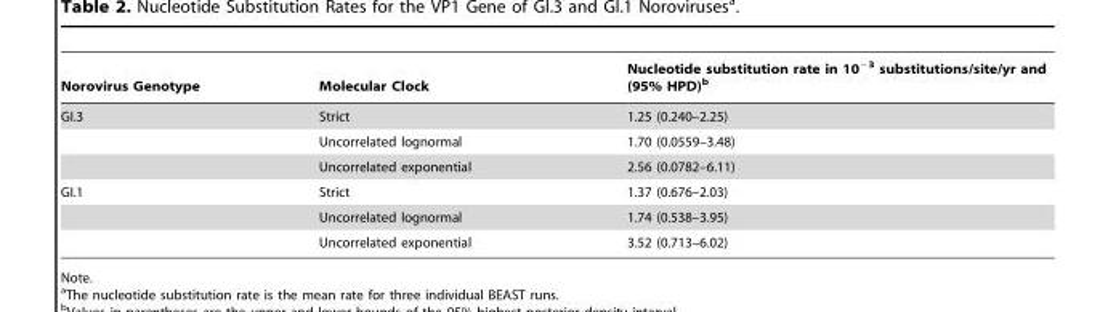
<table><thead><tr><td>Norovirus Genotype</td><td>Molecular Clock</td><td>Nucleotide substitution rate in 10<sup>−3</sup> substitutions/site/yr and (95% HPD)<sup>b</sup></td></tr></thead><tbody><tr><td rowspan="3">GI.3</td><td>Strict</td><td>1.25 (0.240–2.25)</td></tr><tr><td>Uncorrelated lognormal</td><td>1.70 (0.0559–3.48)</td></tr><tr><td>Uncorrelated exponential</td><td>2.56 (0.0782–6.11)</td></tr><tr><td rowspan="3">GI.1</td><td>Strict</td><td>1.37 (0.676–2.03)</td></tr><tr><td>Uncorrelated lognormal</td><td>1.74 (0.538–3.95)</td></tr><tr><td>Uncorrelated exponential</td><td>3.52 (0.713–6.02)</td></tr></tbody></table>